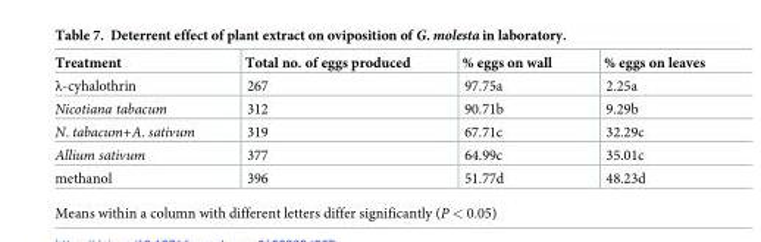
<table><thead><tr><td>Treatment</td><td>Total no. of eggs produced</td><td>% eggs on wall</td><td>% eggs on leaves</td></tr></thead><tbody><tr><td>λ-cyhalothrin</td><td>267</td><td>97.75a</td><td>2.25a</td></tr><tr><td>Nicotiana tabacum</td><td>312</td><td>90.71b</td><td>9.29b</td></tr><tr><td>N. tabacum+A. sativum</td><td>319</td><td>67.71c</td><td>32.29c</td></tr><tr><td>Allium sativum</td><td>377</td><td>64.99c</td><td>35.01c</td></tr><tr><td>methanol</td><td>396</td><td>51.77d</td><td>48.23d</td></tr></tbody></table>